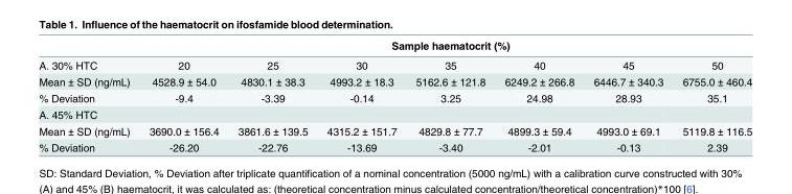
<table><thead><tr><td rowspan="2">A. 30% HTC</td><td colspan="7">Sample haematocrit (%)</td></tr><tr><td>20</td><td>25</td><td>30</td><td>35</td><td>40</td><td>45</td><td>50</td></tr></thead><tbody><tr><td>Mean ± SD (ng/mL)</td><td>4528.9 ± 54.0</td><td>4830.1 ± 38.3</td><td>4993.2 ± 18.3</td><td>5162.6 ± 121.8</td><td>6249.2 ± 266.8</td><td>6446.7 ± 340.3</td><td>6755.0 ± 460.4</td></tr><tr><td>% Deviation</td><td>-9.4</td><td>-3.39</td><td>-0.14</td><td>3.25</td><td>24.98</td><td>28.93</td><td>35.1</td></tr><tr><td colspan="8">A. 45% HTC</td></tr><tr><td>Mean ± SD (ng/mL)</td><td>3690.0 ± 156.4</td><td>3861.6 ± 139.5</td><td>4315.2 ± 151.7</td><td>4829.8 ± 77.7</td><td>4899.3 ± 59.4</td><td>4993.0 ± 69.1</td><td>5119.8 ± 116.5</td></tr><tr><td>% Deviation</td><td>-26.20</td><td>-22.76</td><td>-13.69</td><td>-3.40</td><td>-2.01</td><td>-0.13</td><td>2.39</td></tr></tbody></table>